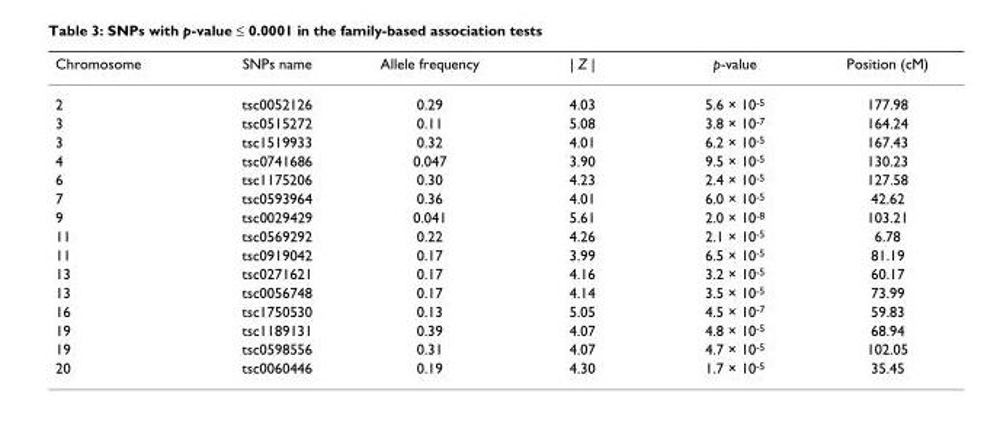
<table><thead><tr><td>Chromosome</td><td>SNPs name</td><td>Allele frequency</td><td>| Z |</td><td>p-value</td><td>Position (cM)</td></tr></thead><tbody><tr><td>2</td><td>tsc0052126</td><td>0.29</td><td>4.03</td><td>5.6 × 10-5</td><td>177.98</td></tr><tr><td>3</td><td>tsc0515272</td><td>0.11</td><td>5.08</td><td>3.8 × 10-7</td><td>164.24</td></tr><tr><td>3</td><td>tsc1519933</td><td>0.32</td><td>4.01</td><td>6.2 × 10-5</td><td>167.43</td></tr><tr><td>4</td><td>tsc0741686</td><td>0.047</td><td>3.90</td><td>9.5 × 10-5</td><td>130.23</td></tr><tr><td>6</td><td>tsc1175206</td><td>0.30</td><td>4.23</td><td>2.4 × 10-5</td><td>127.58</td></tr><tr><td>7</td><td>tsc0593964</td><td>0.36</td><td>4.01</td><td>6.0 × 10-5</td><td>42.62</td></tr><tr><td>9</td><td>tsc0029429</td><td>0.041</td><td>5.61</td><td>2.0 × 10-8</td><td>103.21</td></tr><tr><td>11</td><td>tsc0569292</td><td>0.22</td><td>4.26</td><td>2.1 × 10-5</td><td>6.78</td></tr><tr><td>11</td><td>tsc0919042</td><td>0.17</td><td>3.99</td><td>6.5 × 10-5</td><td>81.19</td></tr><tr><td>13</td><td>tsc0271621</td><td>0.17</td><td>4.16</td><td>3.2 × 10-5</td><td>60.17</td></tr><tr><td>13</td><td>tsc0056748</td><td>0.17</td><td>4.14</td><td>3.5 × 10-5</td><td>73.99</td></tr><tr><td>16</td><td>tsc1750530</td><td>0.13</td><td>5.05</td><td>4.5 × 10-7</td><td>59.83</td></tr><tr><td>19</td><td>tsc1189131</td><td>0.39</td><td>4.07</td><td>4.8 × 10-5</td><td>68.94</td></tr><tr><td>19</td><td>tsc0598556</td><td>0.31</td><td>4.07</td><td>4.7 × 10-5</td><td>102.05</td></tr><tr><td>20</td><td>tsc0060446</td><td>0.19</td><td>4.30</td><td>1.7 × 10-5</td><td>35.45</td></tr></tbody></table>